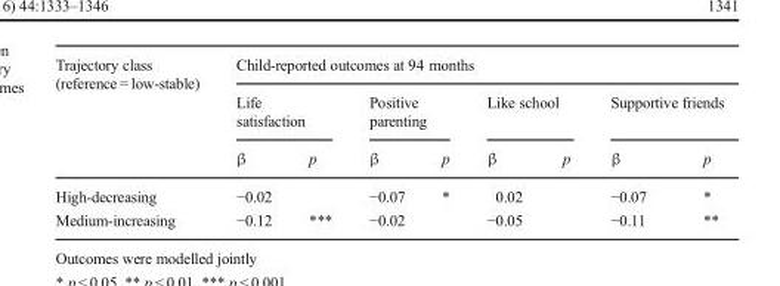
<table><thead><tr><td rowspan="3">Trajectory class (reference = low-stable)</td><td colspan="8">Child-reported outcomes at 94 months</td></tr><tr><td colspan="2">Life satisfaction</td><td colspan="2">Positive parenting</td><td colspan="2">Like school</td><td colspan="2">Supportive friends</td></tr><tr><td>β</td><td>p</td><td>β</td><td>p</td><td>β</td><td>p</td><td>β</td><td>p</td></tr></thead><tbody><tr><td>High-decreasing</td><td>−0.02</td><td></td><td>−0.07</td><td>*</td><td>0.02</td><td></td><td>−0.07</td><td>*</td></tr><tr><td>Medium-increasing</td><td>−0.12</td><td>***</td><td>−0.02</td><td></td><td>−0.05</td><td></td><td>−0.11</td><td>**</td></tr></tbody></table>